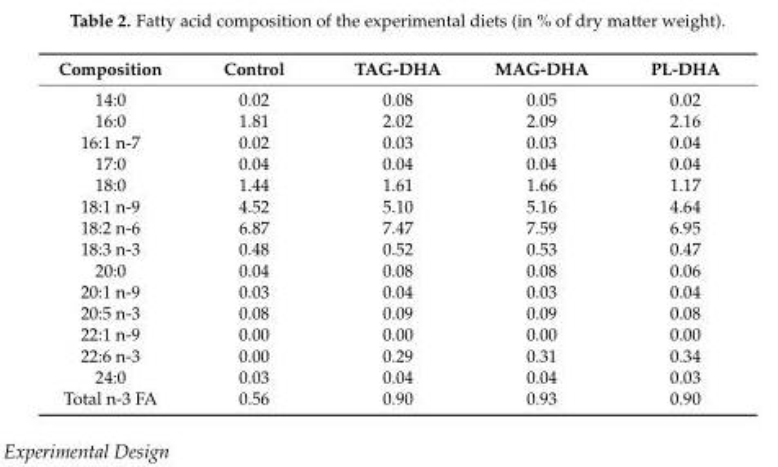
<table><thead><tr><td>Composition</td><td>Control</td><td>TAG-DHA</td><td>MAG-DHA</td><td>PL-DHA</td></tr></thead><tbody><tr><td>14:0</td><td>0.02</td><td>0.08</td><td>0.05</td><td>0.02</td></tr><tr><td>16:0</td><td>1.81</td><td>2.02</td><td>2.09</td><td>2.16</td></tr><tr><td>16:1 n-7</td><td>0.02</td><td>0.03</td><td>0.03</td><td>0.04</td></tr><tr><td>17:0</td><td>0.04</td><td>0.04</td><td>0.04</td><td>0.04</td></tr><tr><td>18:0</td><td>1.44</td><td>1.61</td><td>1.66</td><td>1.17</td></tr><tr><td>18:1 n-9</td><td>4.52</td><td>5.10</td><td>5.16</td><td>4.64</td></tr><tr><td>18:2 n-6</td><td>6.87</td><td>7.47</td><td>7.59</td><td>6.95</td></tr><tr><td>18:3 n-3</td><td>0.48</td><td>0.52</td><td>0.53</td><td>0.47</td></tr><tr><td>20:0</td><td>0.04</td><td>0.08</td><td>0.08</td><td>0.06</td></tr><tr><td>20:1 n-9</td><td>0.03</td><td>0.04</td><td>0.03</td><td>0.04</td></tr><tr><td>20:5 n-3</td><td>0.08</td><td>0.09</td><td>0.09</td><td>0.08</td></tr><tr><td>22:1 n-9</td><td>0.00</td><td>0.00</td><td>0.00</td><td>0.00</td></tr><tr><td>22:6 n-3</td><td>0.00</td><td>0.29</td><td>0.31</td><td>0.34</td></tr><tr><td>24:0</td><td>0.03</td><td>0.04</td><td>0.04</td><td>0.03</td></tr><tr><td>Total n-3 FA</td><td>0.56</td><td>0.90</td><td>0.93</td><td>0.90</td></tr></tbody></table>